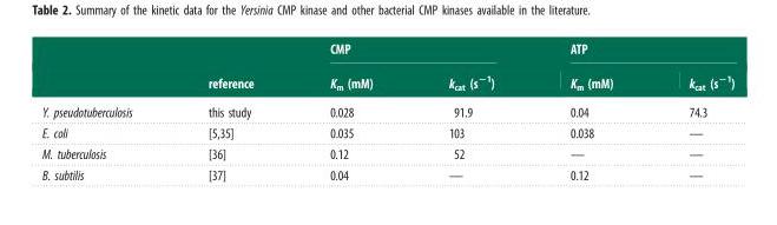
<table><thead><tr><td rowspan="2"></td><td rowspan="2">reference</td><td colspan="2">CMP</td><td colspan="2">ATP</td></tr><tr><td>K<sub>m</sub> (mM)</td><td>k<sub>cat</sub> (s<sup>−1</sup>)</td><td>K<sub>m</sub> (mM)</td><td>k<sub>cat</sub> (s<sup>−1</sup>)</td></tr></thead><tbody><tr><td>Y. pseudotuberculosis</td><td>this study</td><td>0.028</td><td>91.9</td><td>0.04</td><td>74.3</td></tr><tr><td>E. coli</td><td>[5,35]</td><td>0.035</td><td>103</td><td>0.038</td><td>—</td></tr><tr><td>M. tuberculosis</td><td>[36]</td><td>0.12</td><td>52</td><td>—</td><td>—</td></tr><tr><td>B. subtilis</td><td>[37]</td><td>0.04</td><td>—</td><td>0.12</td><td>—</td></tr></tbody></table>